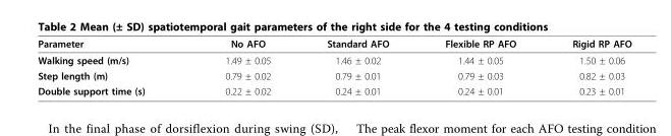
<table><thead><tr><td>Parameter</td><td>No AFO</td><td>Standard AFO</td><td>Flexible RP AFO</td><td>Rigid RP AFO</td></tr></thead><tbody><tr><td>Walking speed (m/s)</td><td>1.49 ± 0.05</td><td>1.46 ± 0.02</td><td>1.44 ± 0.05</td><td>1.50 ± 0.06</td></tr><tr><td>Step length (m)</td><td>0.79 ± 0.02</td><td>0.79 ± 0.01</td><td>0.79 ± 0.03</td><td>0.82 ± 0.03</td></tr><tr><td>Double support time (s)</td><td>0.22 ± 0.02</td><td>0.24 ± 0.01</td><td>0.24 ± 0.01</td><td>0.23 ± 0.01</td></tr></tbody></table>